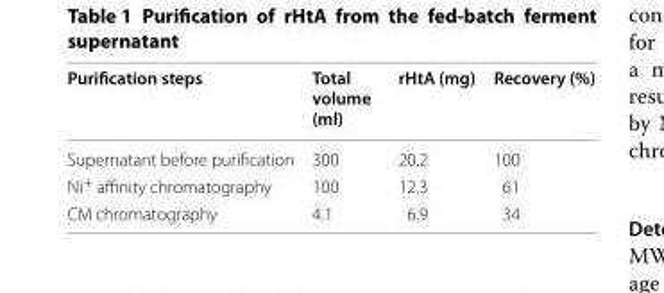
<table><thead><tr><td>Purification steps</td><td>Total volume (ml)</td><td>rHtA (mg)</td><td>Recovery (%)</td></tr></thead><tbody><tr><td>Supernatant before purification</td><td>300</td><td>20.2</td><td>100</td></tr><tr><td>Ni<sup>+</sup> affinity chromatography</td><td>100</td><td>12.3</td><td>61</td></tr><tr><td>CM chromatography</td><td>4.1</td><td>6.9</td><td>34</td></tr></tbody></table>